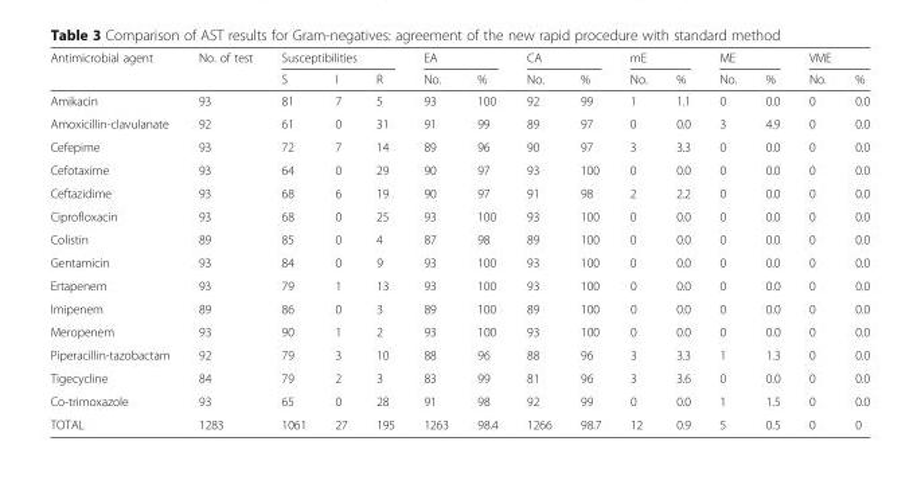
<table><thead><tr><td rowspan="2">Antimicrobial agent</td><td rowspan="2">No. of test</td><td colspan="3">Susceptibilities</td><td colspan="2">EA</td><td colspan="2">CA</td><td colspan="2">mE</td><td colspan="2">ME</td><td colspan="2">VME</td></tr><tr><td>S</td><td>I</td><td>R</td><td>No.</td><td>%</td><td>No.</td><td>%</td><td>No.</td><td>%</td><td>No.</td><td>%</td><td>No.</td><td>%</td></tr></thead><tbody><tr><td>Amikacin</td><td>93</td><td>81</td><td>7</td><td>5</td><td>93</td><td>100</td><td>92</td><td>99</td><td>1</td><td>1.1</td><td>0</td><td>0.0</td><td>0</td><td>0.0</td></tr><tr><td>Amoxicillin-clavulanate</td><td>92</td><td>61</td><td>0</td><td>31</td><td>91</td><td>99</td><td>89</td><td>97</td><td>0</td><td>0.0</td><td>3</td><td>4.9</td><td>0</td><td>0.0</td></tr><tr><td>Cefepime</td><td>93</td><td>72</td><td>7</td><td>14</td><td>89</td><td>96</td><td>90</td><td>97</td><td>3</td><td>3.3</td><td>0</td><td>0.0</td><td>0</td><td>0.0</td></tr><tr><td>Cefotaxime</td><td>93</td><td>64</td><td>0</td><td>29</td><td>90</td><td>97</td><td>93</td><td>100</td><td>0</td><td>0.0</td><td>0</td><td>0.0</td><td>0</td><td>0.0</td></tr><tr><td>Ceftazidime</td><td>93</td><td>68</td><td>6</td><td>19</td><td>90</td><td>97</td><td>91</td><td>98</td><td>2</td><td>2.2</td><td>0</td><td>0.0</td><td>0</td><td>0.0</td></tr><tr><td>Ciprofloxacin</td><td>93</td><td>68</td><td>0</td><td>25</td><td>93</td><td>100</td><td>93</td><td>100</td><td>0</td><td>0.0</td><td>0</td><td>0.0</td><td>0</td><td>0.0</td></tr><tr><td>Colistin</td><td>89</td><td>85</td><td>0</td><td>4</td><td>87</td><td>98</td><td>89</td><td>100</td><td>0</td><td>0.0</td><td>0</td><td>0.0</td><td>0</td><td>0.0</td></tr><tr><td>Gentamicin</td><td>93</td><td>84</td><td>0</td><td>9</td><td>93</td><td>100</td><td>93</td><td>100</td><td>0</td><td>0.0</td><td>0</td><td>0.0</td><td>0</td><td>0.0</td></tr><tr><td>Ertapenem</td><td>93</td><td>79</td><td>1</td><td>13</td><td>93</td><td>100</td><td>93</td><td>100</td><td>0</td><td>0.0</td><td>0</td><td>0.0</td><td>0</td><td>0.0</td></tr><tr><td>Imipenem</td><td>89</td><td>86</td><td>0</td><td>3</td><td>89</td><td>100</td><td>89</td><td>100</td><td>0</td><td>0.0</td><td>0</td><td>0.0</td><td>0</td><td>0.0</td></tr><tr><td>Meropenem</td><td>93</td><td>90</td><td>1</td><td>2</td><td>93</td><td>100</td><td>93</td><td>100</td><td>0</td><td>0.0</td><td>0</td><td>0.0</td><td>0</td><td>0.0</td></tr><tr><td>Piperacillin-tazobactam</td><td>92</td><td>79</td><td>3</td><td>10</td><td>88</td><td>96</td><td>88</td><td>96</td><td>3</td><td>3.3</td><td>1</td><td>1.3</td><td>0</td><td>0.0</td></tr><tr><td>Tigecycline</td><td>84</td><td>79</td><td>2</td><td>3</td><td>83</td><td>99</td><td>81</td><td>96</td><td>3</td><td>3.6</td><td>0</td><td>0.0</td><td>0</td><td>0.0</td></tr><tr><td>Co-trimoxazole</td><td>93</td><td>65</td><td>0</td><td>28</td><td>91</td><td>98</td><td>92</td><td>99</td><td>0</td><td>0.0</td><td>1</td><td>1.5</td><td>0</td><td>0.0</td></tr><tr><td>TOTAL</td><td>1283</td><td>1061</td><td>27</td><td>195</td><td>1263</td><td>98.4</td><td>1266</td><td>98.7</td><td>12</td><td>0.9</td><td>5</td><td>0.5</td><td>0</td><td>0</td></tr></tbody></table>